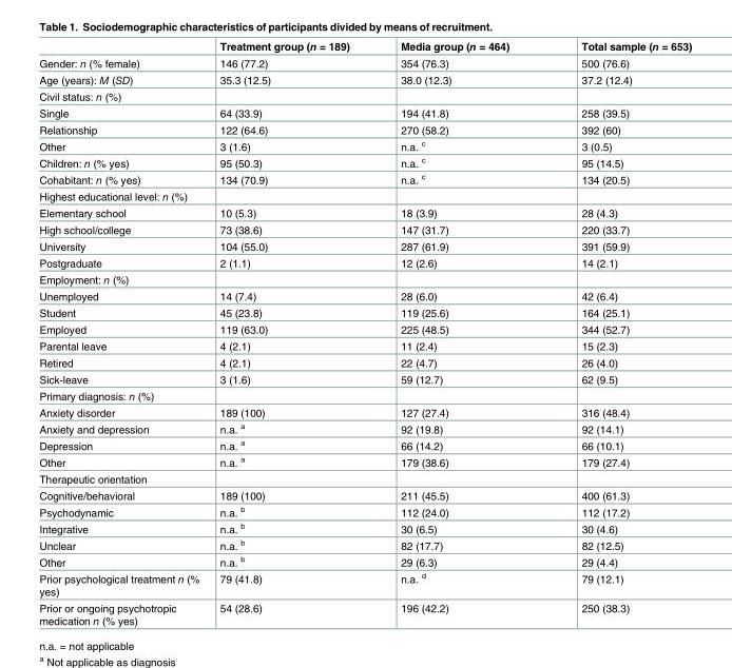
<table><thead><tr><td></td><td>Treatment group (n = 189)</td><td>Media group (n = 464)</td><td>Total sample (n = 653)</td></tr></thead><tbody><tr><td>Gender: n (% female)</td><td>146 (77.2)</td><td>354 (76.3)</td><td>500 (76.6)</td></tr><tr><td>Age (years): M (SD)</td><td>35.3 (12.5)</td><td>38.0 (12.3)</td><td>37.2 (12.4)</td></tr><tr><td colspan="4">Civil status: n (%)</td></tr><tr><td>Single</td><td>64 (33.9)</td><td>194 (41.8)</td><td>258 (39.5)</td></tr><tr><td>Relationship</td><td>122 (64.6)</td><td>270 (58.2)</td><td>392 (60)</td></tr><tr><td>Other</td><td>3 (1.6)</td><td>n.a. <sup>c</sup></td><td>3 (0.5)</td></tr><tr><td>Children: n (% yes)</td><td>95 (50.3)</td><td>n.a. <sup>c</sup></td><td>95 (14.5)</td></tr><tr><td>Cohabitant: n (% yes)</td><td>134 (70.9)</td><td>n.a. <sup>c</sup></td><td>134 (20.5)</td></tr><tr><td colspan="4">Highest educational level: n (%)</td></tr><tr><td>Elementary school</td><td>10 (5.3)</td><td>18 (3.9)</td><td>28 (4.3)</td></tr><tr><td>High school/college</td><td>73 (38.6)</td><td>147 (31.7)</td><td>220 (33.7)</td></tr><tr><td>University</td><td>104 (55.0)</td><td>287 (61.9)</td><td>391 (59.9)</td></tr><tr><td>Postgraduate</td><td>2 (1.1)</td><td>12 (2.6)</td><td>14 (2.1)</td></tr><tr><td colspan="4">Employment: n (%)</td></tr><tr><td>Unemployed</td><td>14 (7.4)</td><td>28 (6.0)</td><td>42 (6.4)</td></tr><tr><td>Student</td><td>45 (23.8)</td><td>119 (25.6)</td><td>164 (25.1)</td></tr><tr><td>Employed</td><td>119 (63.0)</td><td>225 (48.5)</td><td>344 (52.7)</td></tr><tr><td>Parental leave</td><td>4 (2.1)</td><td>11 (2.4)</td><td>15 (2.3)</td></tr><tr><td>Retired</td><td>4 (2.1)</td><td>22 (4.7)</td><td>26 (4.0)</td></tr><tr><td>Sick-leave</td><td>3 (1.6)</td><td>59 (12.7)</td><td>62 (9.5)</td></tr><tr><td colspan="4">Primary diagnosis: n (%)</td></tr><tr><td>Anxiety disorder</td><td>189 (100)</td><td>127 (27.4)</td><td>316 (48.4)</td></tr><tr><td>Anxiety and depression</td><td>n.a. <sup>a</sup></td><td>92 (19.8)</td><td>92 (14.1)</td></tr><tr><td>Depression</td><td>n.a. <sup>a</sup></td><td>66 (14.2)</td><td>66 (10.1)</td></tr><tr><td>Other</td><td>n.a. <sup>a</sup></td><td>179 (38.6)</td><td>179 (27.4)</td></tr><tr><td colspan="4">Therapeutic orientation</td></tr><tr><td>Cognitive/behavioral</td><td>189 (100)</td><td>211 (45.5)</td><td>400 (61.3)</td></tr><tr><td>Psychodynamic</td><td>n.a. <sup>b</sup></td><td>112 (24.0)</td><td>112 (17.2)</td></tr><tr><td>Integrative</td><td>n.a. <sup>b</sup></td><td>30 (6.5)</td><td>30 (4.6)</td></tr><tr><td>Unclear</td><td>n.a. <sup>b</sup></td><td>82 (17.7)</td><td>82 (12.5)</td></tr><tr><td>Other</td><td>n.a. <sup>b</sup></td><td>29 (6.3)</td><td>29 (4.4)</td></tr><tr><td>Prior psychological treatment n (% yes)</td><td>79 (41.8)</td><td>n.a. <sup>d</sup></td><td>79 (12.1)</td></tr><tr><td>Prior or ongoing psychotropic medication n (% yes)</td><td>54 (28.6)</td><td>196 (42.2)</td><td>250 (38.3)</td></tr></tbody></table>